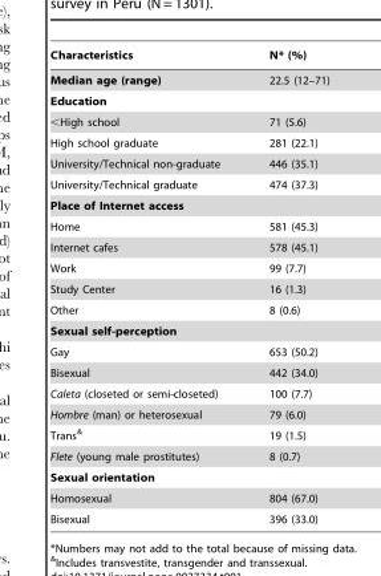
<table><thead><tr><td>Characteristics</td><td>N* (%)</td></tr></thead><tbody><tr><td>Median age (range)</td><td>22.5 (12–71)</td></tr><tr><td colspan="2">Education</td></tr><tr><td>&lt;High school</td><td>71 (5.6)</td></tr><tr><td>High school graduate</td><td>281 (22.1)</td></tr><tr><td>University/Technical non-graduate</td><td>446 (35.1)</td></tr><tr><td>University/Technical graduate</td><td>474 (37.3)</td></tr><tr><td colspan="2">Place of Internet access</td></tr><tr><td>Home</td><td>581 (45.3)</td></tr><tr><td>Internet cafes</td><td>578 (45.1)</td></tr><tr><td>Work</td><td>99 (7.7)</td></tr><tr><td>Study Center</td><td>16 (1.3)</td></tr><tr><td>Other</td><td>8 (0.6)</td></tr><tr><td colspan="2">Sexual self-perception</td></tr><tr><td>Gay</td><td>653 (50.2)</td></tr><tr><td>Bisexual</td><td>442 (34.0)</td></tr><tr><td>Caleta (closeted or semi-closeted)</td><td>100 (7.7)</td></tr><tr><td>Hombre (man) or heterosexual</td><td>79 (6.0)</td></tr><tr><td>Trans&amp;</td><td>19 (1.5)</td></tr><tr><td>Flete (young male prostitutes)</td><td>8 (0.7)</td></tr><tr><td colspan="2">Sexual orientation</td></tr><tr><td>Homosexual</td><td>804 (67.0)</td></tr><tr><td>Bisexual</td><td>396 (33.0)</td></tr></tbody></table>